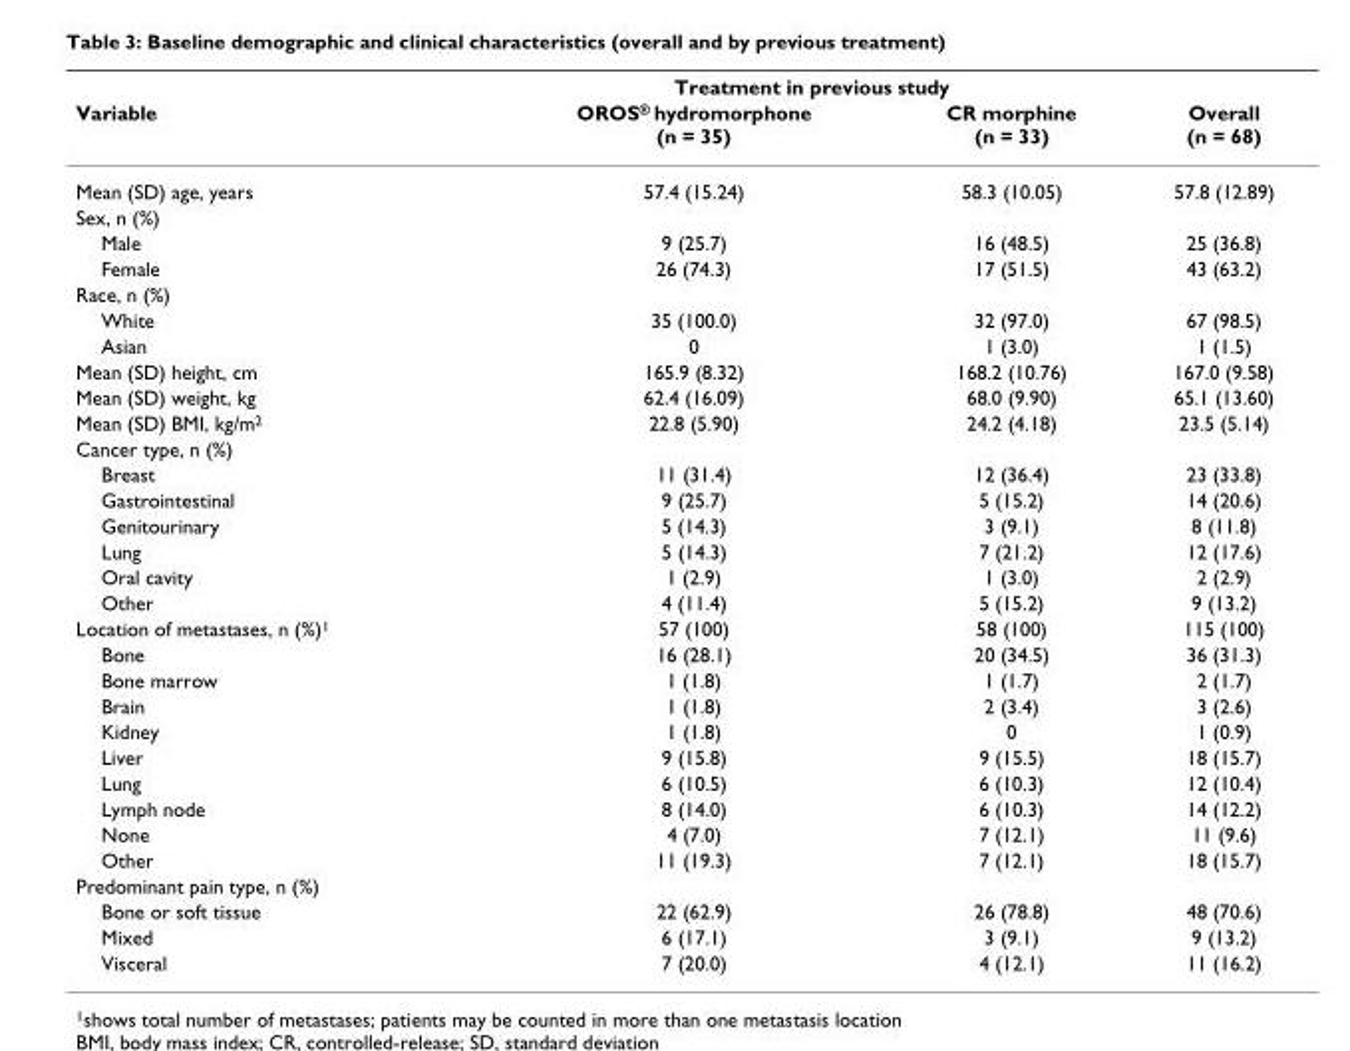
<table><thead><tr><td rowspan="2">Variable</td><td colspan="2">Treatment in previous study</td><td rowspan="2">Overall (n = 68)</td></tr><tr><td>OROS® hydromorphone (n = 35)</td><td>CR morphine (n = 33)</td></tr></thead><tbody><tr><td>Mean (SD) age, years</td><td>57.4 (15.24)</td><td>58.3 (10.05)</td><td>57.8 (12.89)</td></tr><tr><td colspan="4">Sex, n (%)</td></tr><tr><td>Male</td><td>9 (25.7)</td><td>16 (48.5)</td><td>25 (36.8)</td></tr><tr><td>Female</td><td>26 (74.3)</td><td>17 (51.5)</td><td>43 (63.2)</td></tr><tr><td colspan="4">Race, n (%)</td></tr><tr><td>White</td><td>35 (100.0)</td><td>32 (97.0)</td><td>67 (98.5)</td></tr><tr><td>Asian</td><td>0</td><td>1 (3.0)</td><td>1 (1.5)</td></tr><tr><td>Mean (SD) height, cm</td><td>165.9 (8.32)</td><td>168.2 (10.76)</td><td>167.0 (9.58)</td></tr><tr><td>Mean (SD) weight, kg</td><td>62.4 (16.09)</td><td>68.0 (9.90)</td><td>65.1 (13.60)</td></tr><tr><td>Mean (SD) BMI, kg/m<sup>2</sup></td><td>22.8 (5.90)</td><td>24.2 (4.18)</td><td>23.5 (5.14)</td></tr><tr><td colspan="4">Cancer type, n (%)</td></tr><tr><td>Breast</td><td>11 (31.4)</td><td>12 (36.4)</td><td>23 (33.8)</td></tr><tr><td>Gastrointestinal</td><td>9 (25.7)</td><td>5 (15.2)</td><td>14 (20.6)</td></tr><tr><td>Genitourinary</td><td>5 (14.3)</td><td>3 (9.1)</td><td>8 (11.8)</td></tr><tr><td>Lung</td><td>5 (14.3)</td><td>7 (21.2)</td><td>12 (17.6)</td></tr><tr><td>Oral cavity</td><td>1 (2.9)</td><td>1 (3.0)</td><td>2 (2.9)</td></tr><tr><td>Other</td><td>4 (11.4)</td><td>5 (15.2)</td><td>9 (13.2)</td></tr><tr><td>Location of metastases, n (%)<sup>1</sup></td><td>57 (100)</td><td>58 (100)</td><td>115 (100)</td></tr><tr><td>Bone</td><td>16 (28.1)</td><td>20 (34.5)</td><td>36 (31.3)</td></tr><tr><td>Bone marrow</td><td>1 (1.8)</td><td>1 (1.7)</td><td>2 (1.7)</td></tr><tr><td>Brain</td><td>1 (1.8)</td><td>2 (3.4)</td><td>3 (2.6)</td></tr><tr><td>Kidney</td><td>1 (1.8)</td><td>0</td><td>1 (0.9)</td></tr><tr><td>Liver</td><td>9 (15.8)</td><td>9 (15.5)</td><td>18 (15.7)</td></tr><tr><td>Lung</td><td>6 (10.5)</td><td>6 (10.3)</td><td>12 (10.4)</td></tr><tr><td>Lymph node</td><td>8 (14.0)</td><td>6 (10.3)</td><td>14 (12.2)</td></tr><tr><td>None</td><td>4 (7.0)</td><td>7 (12.1)</td><td>11 (9.6)</td></tr><tr><td>Other</td><td>11 (19.3)</td><td>7 (12.1)</td><td>18 (15.7)</td></tr><tr><td colspan="4">Predominant pain type, n (%)</td></tr><tr><td>Bone or soft tissue</td><td>22 (62.9)</td><td>26 (78.8)</td><td>48 (70.6)</td></tr><tr><td>Mixed</td><td>6 (17.1)</td><td>3 (9.1)</td><td>9 (13.2)</td></tr><tr><td>Visceral</td><td>7 (20.0)</td><td>4 (12.1)</td><td>11 (16.2)</td></tr></tbody></table>